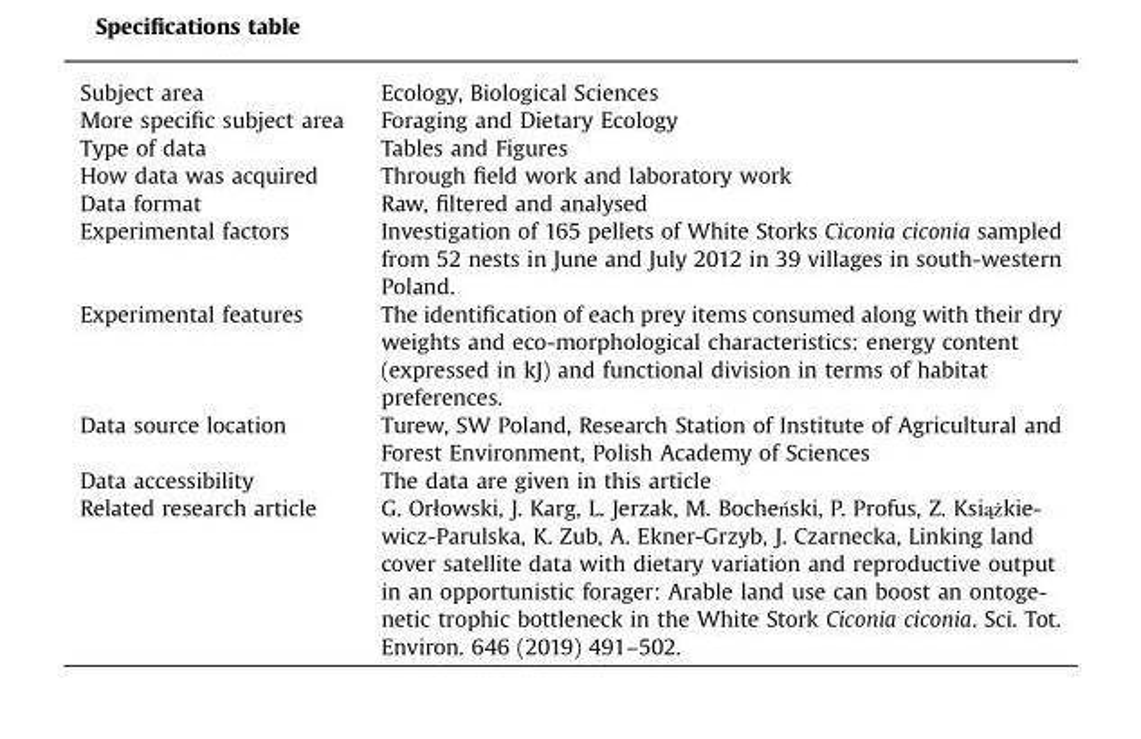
<table><thead><tr><td>Subject area</td><td>Ecology, Biological Sciences</td></tr></thead><tbody><tr><td>More specific subject area</td><td>Foraging and Dietary Ecology</td></tr><tr><td>Type of data</td><td>Tables and Figures</td></tr><tr><td>How data was acquired</td><td>Through field work and laboratory work</td></tr><tr><td>Data format</td><td>Raw, filtered and analysed</td></tr><tr><td>Experimental factors</td><td>Investigation of 165 pellets of White Storks Ciconia ciconia sampled from 52 nests in June and July 2012 in 39 villages in south-western Poland.</td></tr><tr><td>Experimental features</td><td>The identification of each prey items consumed along with their dry weights and eco-morphological characteristics: energy content (expressed in kJ) and functional division in terms of habitat preferences.</td></tr><tr><td>Data source location</td><td>Turew, SW Poland, Research Station of Institute of Agricultural and Forest Environment, Polish Academy of Sciences</td></tr><tr><td>Data accessibility</td><td>The data are given in this article</td></tr><tr><td>Related research article</td><td>G. Orłowski, J. Karg, L. Jerzak, M. Bocheński, P. Profus, Z. Książkie- wicz-Parulska, K. Zub, A. Ekner-Grzyb, J. Czarnecka, Linking land cover satellite data with dietary variation and reproductive output in an opportunistic forager: Arable land use can boost an ontoge- netic trophic bottleneck in the White Stork Ciconia ciconia. Sci. Tot. Environ. 646 (2019) 491–502.</td></tr></tbody></table>